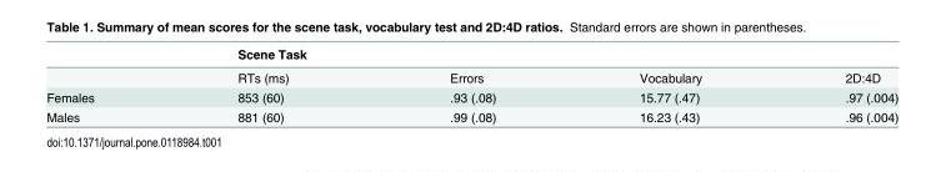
<table><thead><tr><td></td><td>Scene Task</td><td></td><td></td><td></td></tr></thead><tbody><tr><td></td><td>RTs (ms)</td><td>Errors</td><td>Vocabulary</td><td>2D:4D</td></tr><tr><td>Females</td><td>853 (60)</td><td>.93 (.08)</td><td>15.77 (.47)</td><td>.97 (.004)</td></tr><tr><td>Males</td><td>881 (60)</td><td>.99 (.08)</td><td>16.23 (.43)</td><td>.96 (.004)</td></tr></tbody></table>